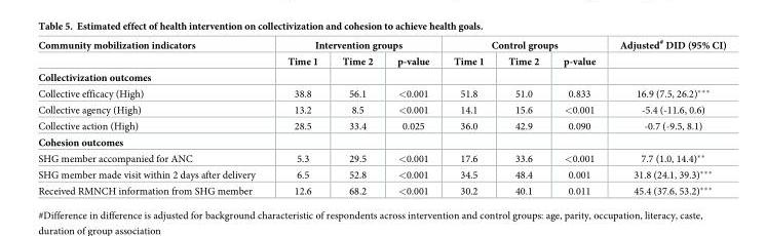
<table><thead><tr><td rowspan="2">Community mobilization indicators</td><td colspan="3">Intervention groups</td><td colspan="3">Control groups</td><td rowspan="2">Adjusted<sup>#</sup> DID (95% CI)</td></tr><tr><td>Time 1</td><td>Time 2</td><td>p-value</td><td>Time 1</td><td>Time 2</td><td>p-value</td></tr></thead><tbody><tr><td colspan="8">Collectivization outcomes</td></tr><tr><td>Collective efficacy (High)</td><td>38.8</td><td>56.1</td><td>&lt;0.001</td><td>51.8</td><td>51.0</td><td>0.833</td><td>16.9 (7.5, 26.2)***</td></tr><tr><td>Collective agency (High)</td><td>13.2</td><td>8.5</td><td>&lt;0.001</td><td>14.1</td><td>15.6</td><td>&lt;0.001</td><td>-5.4 (-11.6, 0.6)</td></tr><tr><td>Collective action (High)</td><td>28.5</td><td>33.4</td><td>0.025</td><td>36.0</td><td>42.9</td><td>0.090</td><td>-0.7 (-9.5, 8.1)</td></tr><tr><td colspan="8">Cohesion outcomes</td></tr><tr><td>SHG member accompanied for ANC</td><td>5.3</td><td>29.5</td><td>&lt;0.001</td><td>17.6</td><td>33.6</td><td>&lt;0.001</td><td>7.7 (1.0, 14.4)**</td></tr><tr><td>SHG member made visit within 2 days after delivery</td><td>6.5</td><td>52.8</td><td>&lt;0.001</td><td>34.5</td><td>48.4</td><td>0.001</td><td>31.8 (24.1, 39.3)***</td></tr><tr><td>Received RMNCH information from SHG member</td><td>12.6</td><td>68.2</td><td>&lt;0.001</td><td>30.2</td><td>40.1</td><td>0.011</td><td>45.4 (37.6, 53.2)***</td></tr></tbody></table>